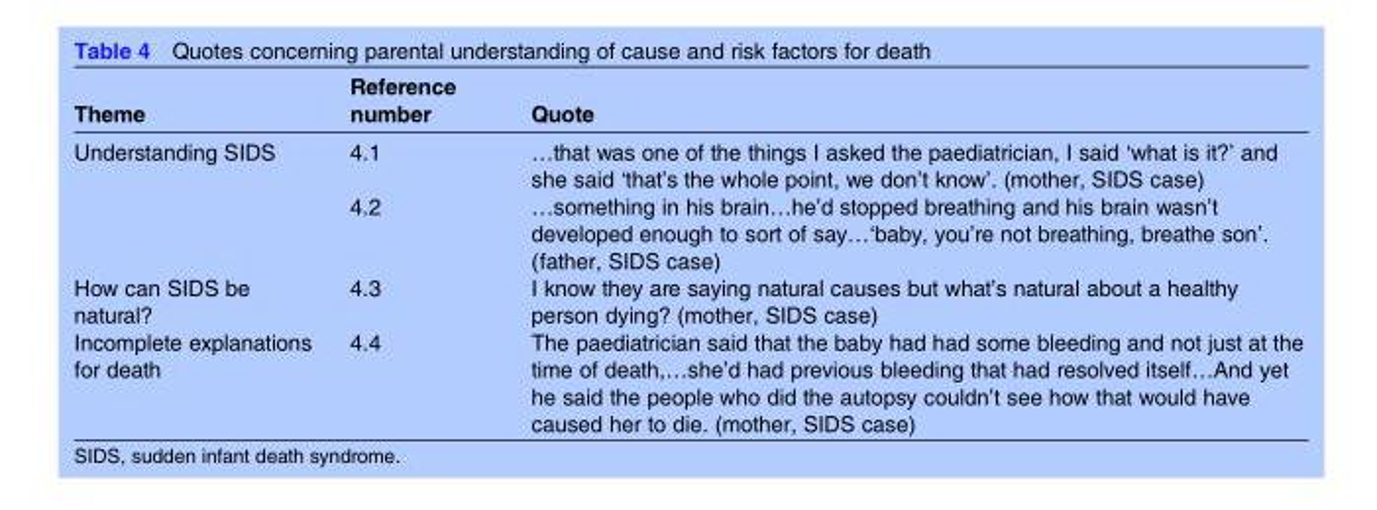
<table><thead><tr><td>Theme</td><td>Reference number</td><td>Quote</td></tr></thead><tbody><tr><td rowspan="2">Understanding SIDS</td><td>4.1</td><td>…that was one of the things I asked the paediatrician, I said ‘what is it?’ and she said ‘that’s the whole point, we don’t know’. (mother, SIDS case)</td></tr><tr><td>4.2</td><td>…something in his brain…he’d stopped breathing and his brain wasn’t developed enough to sort of say…‘baby, you’re not breathing, breathe son’. (father, SIDS case)</td></tr><tr><td>How can SIDS be natural?</td><td>4.3</td><td>I know they are saying natural causes but what’s natural about a healthy person dying? (mother, SIDS case)</td></tr><tr><td>Incomplete explanations for death</td><td>4.4</td><td>The paediatrician said that the baby had had some bleeding and not just at the time of death,…she’d had previous bleeding that had resolved itself…And yet he said the people who did the autopsy couldn’t see how that would have caused her to die. (mother, SIDS case)</td></tr></tbody></table>